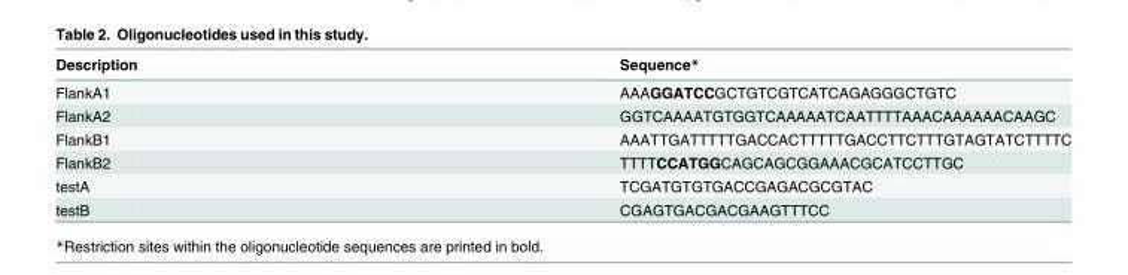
<table><thead><tr><td>Description</td><td>Sequence*</td></tr></thead><tbody><tr><td>FlankA1</td><td>AAAGGATCCGCTGTCGTCATCAGAGGGCTGTC</td></tr><tr><td>FlankA2</td><td>GGTCAAAATGTGGTCAAAAATCAATTTTAAACAAAAAACAAGC</td></tr><tr><td>FlankB1</td><td>AAATTGATTTTTGACCACTTTTTGACCTTCTTTGTAGTATCTTTTC</td></tr><tr><td>FlankB2</td><td>TTTTCCATGGCAGCAGCGGAAACGCATCCTTGC</td></tr><tr><td>testA</td><td>TCGATGTGTGACCGAGACGCGTAC</td></tr><tr><td>testB</td><td>CGAGTGACGACGAAGTTTCC</td></tr></tbody></table>